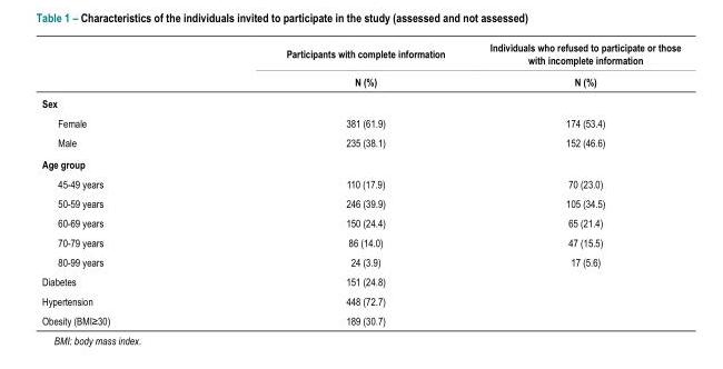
<table><thead><tr><td rowspan="2"></td><td rowspan="2">Participants with complete information N (%)</td><td rowspan="2">Individuals who refused to participate or those with incomplete information N (%)</td></tr><tr></tr></thead><tbody><tr><td colspan="3">Sex</td></tr><tr><td>Female</td><td>381 (61.9)</td><td>174 (53.4)</td></tr><tr><td>Male</td><td>235 (38.1)</td><td>152 (46.6)</td></tr><tr><td colspan="3">Age group</td></tr><tr><td>45-49 years</td><td>110 (17.9)</td><td>70 (23.0)</td></tr><tr><td>50-59 years</td><td>246 (39.9)</td><td>105 (34.5)</td></tr><tr><td>60-69 years</td><td>150 (24.4)</td><td>65 (21.4)</td></tr><tr><td>70-79 years</td><td>86 (14.0)</td><td>47 (15.5)</td></tr><tr><td>80-99 years</td><td>24 (3.9)</td><td>17 (5.6)</td></tr><tr><td>Diabetes</td><td>151 (24.8)</td><td></td></tr><tr><td>Hypertension</td><td>448 (72.7)</td><td></td></tr><tr><td>Obesity (BMI≥30)</td><td>189 (30.7)</td><td></td></tr></tbody></table>